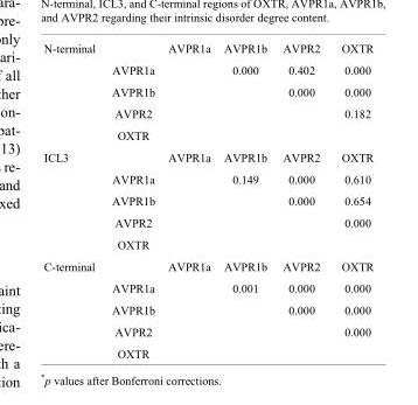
<table><tbody><tr><td rowspan="5">N-terminal</td><td></td><td>AVPR1a</td><td>AVPR1b</td><td>AVPR2</td><td>OXTR</td></tr><tr><td>AVPR1a</td><td></td><td>0.000</td><td>0.402</td><td>0.000</td></tr><tr><td>AVPR1b</td><td></td><td></td><td>0.000</td><td>0.000</td></tr><tr><td>AVPR2</td><td></td><td></td><td></td><td>0.182</td></tr><tr><td>OXTR</td><td></td><td></td><td></td><td></td></tr><tr><td rowspan="5">ICL3</td><td></td><td>AVPR1a</td><td>AVPR1b</td><td>AVPR2</td><td>OXTR</td></tr><tr><td>AVPR1a</td><td></td><td>0.149</td><td>0.000</td><td>0.610</td></tr><tr><td>AVPR1b</td><td></td><td></td><td>0.000</td><td>0.654</td></tr><tr><td>AVPR2</td><td></td><td></td><td></td><td>0.000</td></tr><tr><td>OXTR</td><td></td><td></td><td></td><td></td></tr><tr><td rowspan="5">C-terminal</td><td></td><td>AVPR1a</td><td>AVPR1b</td><td>AVPR2</td><td>OXTR</td></tr><tr><td>AVPR1a</td><td></td><td>0.001</td><td>0.000</td><td>0.000</td></tr><tr><td>AVPR1b</td><td></td><td></td><td>0.000</td><td>0.000</td></tr><tr><td>AVPR2</td><td></td><td></td><td></td><td>0.000</td></tr><tr><td>OXTR</td><td></td><td></td><td></td><td></td></tr></tbody></table>